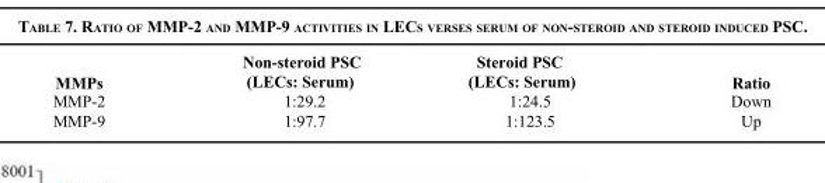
<table><thead><tr><td>MMPs</td><td>Non-steroid PSC (LECs: Serum)</td><td>Steroid PSC (LECs: Serum)</td><td>Ratio</td></tr></thead><tbody><tr><td>MMP-2</td><td>1:29.2</td><td>1:24.5</td><td>Down</td></tr><tr><td>MMP-9</td><td>1:97.7</td><td>1:123.5</td><td>Up</td></tr></tbody></table>